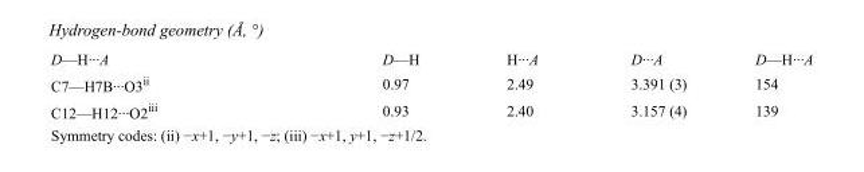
<table><tbody><tr><td>D—H···A</td><td>D—H</td><td>H···A</td><td>D···A</td><td>D—H···A</td></tr><tr><td>C7—H7B···O3<sup>ii</sup></td><td>0.97</td><td>2.49</td><td>3.391 (3)</td><td>154</td></tr><tr><td>C12—H12···O2<sup>iii</sup></td><td>0.93</td><td>2.40</td><td>3.157 (4)</td><td>139</td></tr></tbody></table>